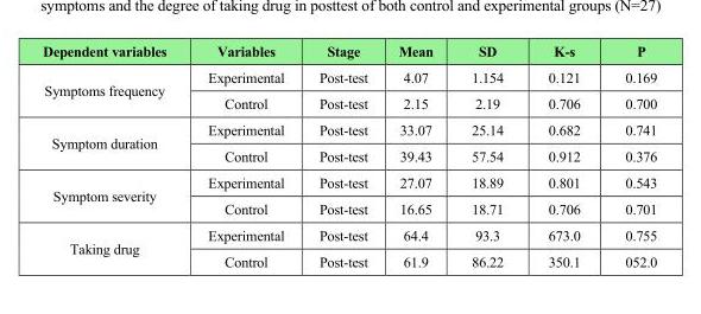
<table><thead><tr><td>Dependent variables</td><td>Variables</td><td>Stage</td><td>Mean</td><td>SD</td><td>K-s</td><td>P</td></tr></thead><tbody><tr><td rowspan="2">Symptoms frequency</td><td>Experimental</td><td>Post-test</td><td>4.07</td><td>1.154</td><td>0.121</td><td>0.169</td></tr><tr><td>Control</td><td>Post-test</td><td>2.15</td><td>2.19</td><td>0.706</td><td>0.700</td></tr><tr><td rowspan="2">Symptom duration</td><td>Experimental</td><td>Post-test</td><td>33.07</td><td>25.14</td><td>0.682</td><td>0.741</td></tr><tr><td>Control</td><td>Post-test</td><td>39.43</td><td>57.54</td><td>0.912</td><td>0.376</td></tr><tr><td rowspan="2">Symptom severity</td><td>Experimental</td><td>Post-test</td><td>27.07</td><td>18.89</td><td>0.801</td><td>0.543</td></tr><tr><td>Control</td><td>Post-test</td><td>16.65</td><td>18.71</td><td>0.706</td><td>0.701</td></tr><tr><td rowspan="2">Taking drug</td><td>Experimental</td><td>Post-test</td><td>64.4</td><td>93.3</td><td>673.0</td><td>0.755</td></tr><tr><td>Control</td><td>Post-test</td><td>61.9</td><td>86.22</td><td>350.1</td><td>052.0</td></tr></tbody></table>